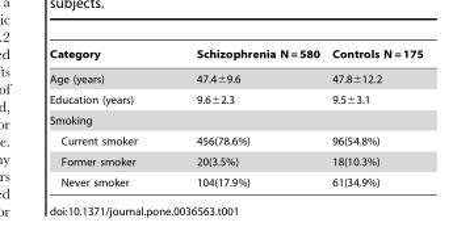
<table><thead><tr><td>Category</td><td>Schizophrenia N = 580</td><td>Controls N = 175</td></tr></thead><tbody><tr><td>Age (years)</td><td>47.4±9.6</td><td>47.8±12.2</td></tr><tr><td>Education (years)</td><td>9.6±2.3</td><td>9.5±3.1</td></tr><tr><td colspan="3">Smoking</td></tr><tr><td>Current smoker</td><td>456(78.6%)</td><td>96(54.8%)</td></tr><tr><td>Former smoker</td><td>20(3.5%)</td><td>18(10.3%)</td></tr><tr><td>Never smoker</td><td>104(17.9%)</td><td>61(34.9%)</td></tr></tbody></table>